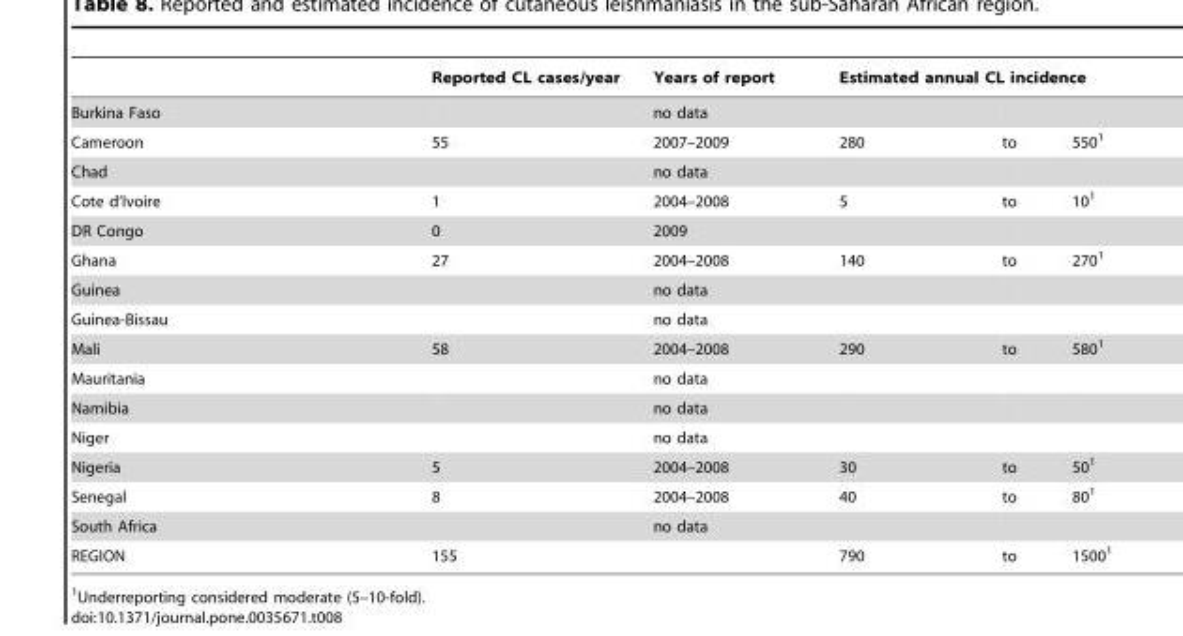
<table><thead><tr><td rowspan="2">Burkina Faso</td><td rowspan="2">Reported CL cases/year</td><td rowspan="2">Years of report no data</td><td colspan="3">Estimated annual CL incidence</td></tr><tr><td></td><td></td><td></td></tr></thead><tbody><tr><td>Cameroon</td><td>55</td><td>2007–2009</td><td>280</td><td>to</td><td>550<sup>1</sup></td></tr><tr><td>Chad</td><td></td><td>no data</td><td></td><td></td><td></td></tr><tr><td>Cote d’Ivoire</td><td>1</td><td>2004–2008</td><td>5</td><td>to</td><td>10<sup>1</sup></td></tr><tr><td>DR Congo</td><td>0</td><td>2009</td><td></td><td></td><td></td></tr><tr><td>Ghana</td><td>27</td><td>2004–2008</td><td>140</td><td>to</td><td>270<sup>1</sup></td></tr><tr><td>Guinea</td><td></td><td>no data</td><td></td><td></td><td></td></tr><tr><td>Guinea-Bissau</td><td></td><td>no data</td><td></td><td></td><td></td></tr><tr><td>Mali</td><td>58</td><td>2004–2008</td><td>290</td><td>to</td><td>580<sup>1</sup></td></tr><tr><td>Mauritania</td><td></td><td>no data</td><td></td><td></td><td></td></tr><tr><td>Namibia</td><td></td><td>no data</td><td></td><td></td><td></td></tr><tr><td>Niger</td><td></td><td>no data</td><td></td><td></td><td></td></tr><tr><td>Nigeria</td><td>5</td><td>2004–2008</td><td>30</td><td>to</td><td>50<sup>1</sup></td></tr><tr><td>Senegal</td><td>8</td><td>2004–2008</td><td>40</td><td>to</td><td>80<sup>1</sup></td></tr><tr><td>South Africa</td><td></td><td>no data</td><td></td><td></td><td></td></tr><tr><td>REGION</td><td>155</td><td></td><td>790</td><td>to</td><td>1500<sup>1</sup></td></tr></tbody></table>